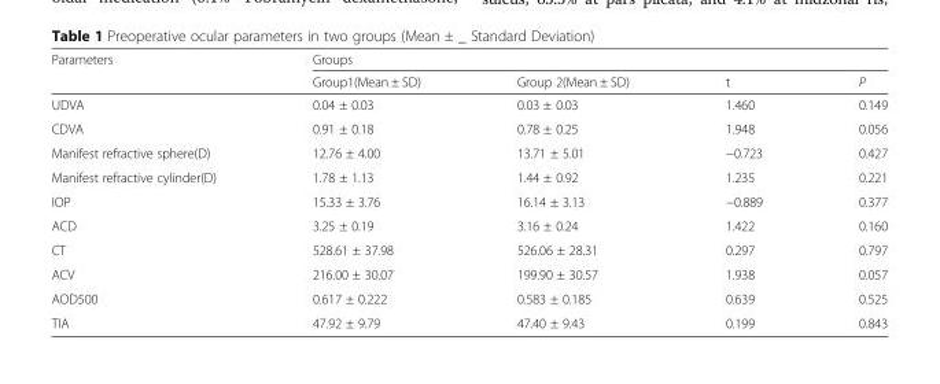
<table><thead><tr><td rowspan="2">Parameters</td><td colspan="4">Groups</td></tr><tr><td>Group1(Mean ± SD)</td><td>Group 2(Mean ± SD)</td><td>t</td><td>P</td></tr></thead><tbody><tr><td>UDVA</td><td>0.04 ± 0.03</td><td>0.03 ± 0.03</td><td>1.460</td><td>0.149</td></tr><tr><td>CDVA</td><td>0.91 ± 0.18</td><td>0.78 ± 0.25</td><td>1.948</td><td>0.056</td></tr><tr><td>Manifest refractive sphere(D)</td><td>12.76 ± 4.00</td><td>13.71 ± 5.01</td><td>−0.723</td><td>0.427</td></tr><tr><td>Manifest refractive cylinder(D)</td><td>1.78 ± 1.13</td><td>1.44 ± 0.92</td><td>1.235</td><td>0.221</td></tr><tr><td>IOP</td><td>15.33 ± 3.76</td><td>16.14 ± 3.13</td><td>−0.889</td><td>0.377</td></tr><tr><td>ACD</td><td>3.25 ± 0.19</td><td>3.16 ± 0.24</td><td>1.422</td><td>0.160</td></tr><tr><td>CT</td><td>528.61 ± 37.98</td><td>526.06 ± 28.31</td><td>0.297</td><td>0.797</td></tr><tr><td>ACV</td><td>216.00 ± 30.07</td><td>199.90 ± 30.57</td><td>1.938</td><td>0.057</td></tr><tr><td>AOD500</td><td>0.617 ± 0.222</td><td>0.583 ± 0.185</td><td>0.639</td><td>0.525</td></tr><tr><td>TIA</td><td>47.92 ± 9.79</td><td>47.40 ± 9.43</td><td>0.199</td><td>0.843</td></tr></tbody></table>